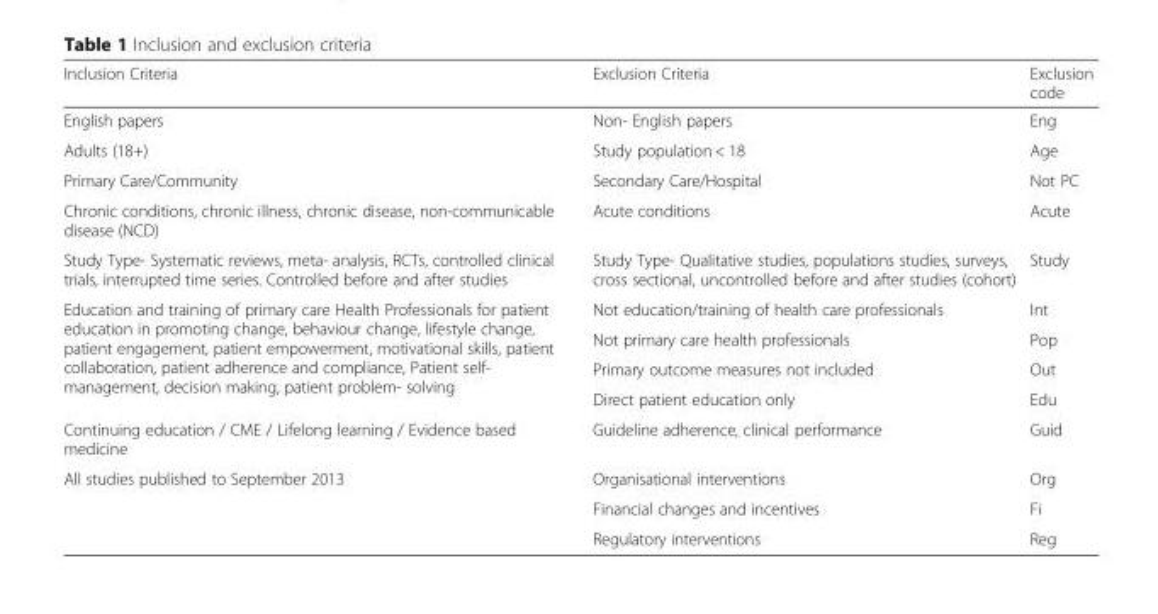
<table><thead><tr><td>Inclusion Criteria</td><td>Exclusion Criteria</td><td>Exclusion code</td></tr></thead><tbody><tr><td>English papers</td><td>Non- English papers</td><td>Eng</td></tr><tr><td>Adults (18+)</td><td>Study population &lt; 18</td><td>Age</td></tr><tr><td>Primary Care/Community</td><td>Secondary Care/Hospital</td><td>Not PC</td></tr><tr><td>Chronic conditions, chronic illness, chronic disease, non-communicable disease (NCD)</td><td>Acute conditions</td><td>Acute</td></tr><tr><td>Study Type- Systematic reviews, meta- analysis, RCTs, controlled clinical trials, interrupted time series. Controlled before and after studies</td><td>Study Type- Qualitative studies, populations studies, surveys, cross sectional, uncontrolled before and after studies (cohort)</td><td>Study</td></tr><tr><td rowspan="4">Education and training of primary care Health Professionals for patient education in promoting change, behaviour change, lifestyle change, patient engagement, patient empowerment, motivational skills, patient collaboration, patient adherence and compliance, Patient self- management, decision making, patient problem- solving</td><td>Not education/training of health care professionals</td><td>Int</td></tr><tr><td>Not primary care health professionals</td><td>Pop</td></tr><tr><td>Primary outcome measures not included</td><td>Out</td></tr><tr><td>Direct patient education only</td><td>Edu</td></tr><tr><td>Continuing education / CME / Lifelong learning / Evidence based medicine</td><td>Guideline adherence, clinical performance</td><td>Guid</td></tr><tr><td rowspan="3">All studies published to September 2013</td><td>Organisational interventions</td><td>Org</td></tr><tr><td>Financial changes and incentives</td><td>Fi</td></tr><tr><td>Regulatory interventions</td><td>Reg</td></tr></tbody></table>